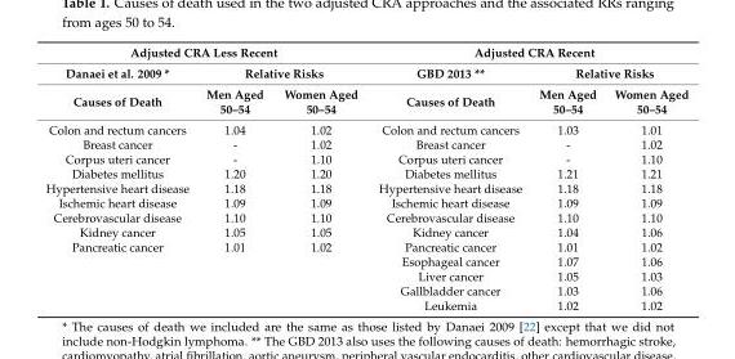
<table><thead><tr><td colspan="3">Adjusted CRA Less Recent</td><td colspan="3">Adjusted CRA Recent</td></tr><tr><td rowspan="2">Danaei et al. 2009 * Causes of Death</td><td colspan="2">Relative Risks</td><td rowspan="2">GBD 2013 ** Causes of Death</td><td colspan="2">Relative Risks</td></tr><tr><td>Men Aged 50–54</td><td>Women Aged 50–54</td><td>Men Aged 50–54</td><td>Women Aged 50–54</td></tr></thead><tbody><tr><td>Colon and rectum cancers</td><td>1.04</td><td>1.02</td><td>Colon and rectum cancers</td><td>1.03</td><td>1.01</td></tr><tr><td>Breast cancer</td><td>-</td><td>1.02</td><td>Breast cancer</td><td>-</td><td>1.02</td></tr><tr><td>Corpus uteri cancer</td><td>-</td><td>1.10</td><td>Corpus uteri cancer</td><td>-</td><td>1.10</td></tr><tr><td>Diabetes mellitus</td><td>1.20</td><td>1.20</td><td>Diabetes mellitus</td><td>1.21</td><td>1.21</td></tr><tr><td>Hypertensive heart disease</td><td>1.18</td><td>1.18</td><td>Hypertensive heart disease</td><td>1.18</td><td>1.18</td></tr><tr><td>Ischemic heart disease</td><td>1.09</td><td>1.09</td><td>Ischemic heart disease</td><td>1.09</td><td>1.09</td></tr><tr><td>Cerebrovascular disease</td><td>1.10</td><td>1.10</td><td>Cerebrovascular disease</td><td>1.10</td><td>1.10</td></tr><tr><td>Kidney cancer</td><td>1.05</td><td>1.05</td><td>Kidney cancer</td><td>1.04</td><td>1.06</td></tr><tr><td rowspan="5">Pancreatic cancer</td><td>1.01</td><td>1.02</td><td>Pancreatic cancer</td><td>1.01</td><td>1.02</td></tr><tr><td></td><td></td><td>Esophageal cancer</td><td>1.07</td><td>1.06</td></tr><tr><td></td><td></td><td>Liver cancer</td><td>1.05</td><td>1.03</td></tr><tr><td></td><td></td><td>Gallbladder cancer</td><td>1.03</td><td>1.06</td></tr><tr><td></td><td></td><td>Leukemia</td><td>1.02</td><td>1.02</td></tr></tbody></table>